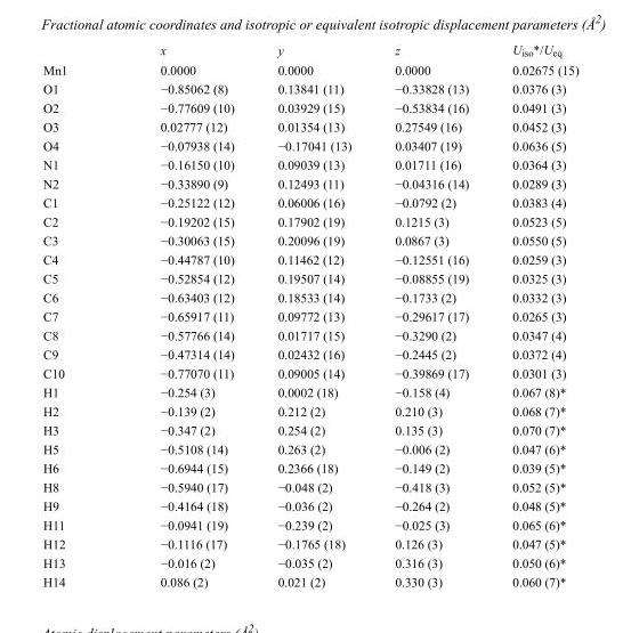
<table><thead><tr><td></td><td>x</td><td>y</td><td>z</td><td>U<sub>iso</sub>*/U<sub>eq</sub></td></tr></thead><tbody><tr><td>Mn1</td><td>0.0000</td><td>0.0000</td><td>0.0000</td><td>0.02675 (15)</td></tr><tr><td>O1</td><td>−0.85062 (8)</td><td>0.13841 (11)</td><td>−0.33828 (13)</td><td>0.0376 (3)</td></tr><tr><td>O2</td><td>−0.77609 (10)</td><td>0.03929 (15)</td><td>−0.53834 (16)</td><td>0.0491 (3)</td></tr><tr><td>O3</td><td>0.02777 (12)</td><td>0.01354 (13)</td><td>0.27549 (16)</td><td>0.0452 (3)</td></tr><tr><td>O4</td><td>−0.07938 (14)</td><td>−0.17041 (13)</td><td>0.03407 (19)</td><td>0.0636 (5)</td></tr><tr><td>N1</td><td>−0.16150 (10)</td><td>0.09039 (13)</td><td>0.01711 (16)</td><td>0.0364 (3)</td></tr><tr><td>N2</td><td>−0.33890 (9)</td><td>0.12493 (11)</td><td>−0.04316 (14)</td><td>0.0289 (3)</td></tr><tr><td>C1</td><td>−0.25122 (12)</td><td>0.06006 (16)</td><td>−0.0792 (2)</td><td>0.0383 (4)</td></tr><tr><td>C2</td><td>−0.19202 (15)</td><td>0.17902 (19)</td><td>0.1215 (3)</td><td>0.0523 (5)</td></tr><tr><td>C3</td><td>−0.30063 (15)</td><td>0.20096 (19)</td><td>0.0867 (3)</td><td>0.0550 (5)</td></tr><tr><td>C4</td><td>−0.44787 (10)</td><td>0.11462 (12)</td><td>−0.12551 (16)</td><td>0.0259 (3)</td></tr><tr><td>C5</td><td>−0.52854 (12)</td><td>0.19507 (14)</td><td>−0.08855 (19)</td><td>0.0325 (3)</td></tr><tr><td>C6</td><td>−0.63403 (12)</td><td>0.18533 (14)</td><td>−0.1733 (2)</td><td>0.0332 (3)</td></tr><tr><td>C7</td><td>−0.65917 (11)</td><td>0.09772 (13)</td><td>−0.29617 (17)</td><td>0.0265 (3)</td></tr><tr><td>C8</td><td>−0.57766 (14)</td><td>0.01717 (15)</td><td>−0.3290 (2)</td><td>0.0347 (4)</td></tr><tr><td>C9</td><td>−0.47314 (14)</td><td>0.02432 (16)</td><td>−0.2445 (2)</td><td>0.0372 (4)</td></tr><tr><td>C10</td><td>−0.77070 (11)</td><td>0.09005 (14)</td><td>−0.39869 (17)</td><td>0.0301 (3)</td></tr><tr><td>H1</td><td>−0.254 (3)</td><td>0.0002 (18)</td><td>−0.158 (4)</td><td>0.067 (8)*</td></tr><tr><td>H2</td><td>−0.139 (2)</td><td>0.212 (2)</td><td>0.210 (3)</td><td>0.068 (7)*</td></tr><tr><td>H3</td><td>−0.347 (2)</td><td>0.254 (2)</td><td>0.135 (3)</td><td>0.070 (7)*</td></tr><tr><td>H5</td><td>−0.5108 (14)</td><td>0.263 (2)</td><td>−0.006 (2)</td><td>0.047 (6)*</td></tr><tr><td>H6</td><td>−0.6944 (15)</td><td>0.2366 (18)</td><td>−0.149 (2)</td><td>0.039 (5)*</td></tr><tr><td>H8</td><td>−0.5940 (17)</td><td>−0.048 (2)</td><td>−0.418 (3)</td><td>0.052 (5)*</td></tr><tr><td>H9</td><td>−0.4164 (18)</td><td>−0.036 (2)</td><td>−0.264 (2)</td><td>0.048 (5)*</td></tr><tr><td>H11</td><td>−0.0941 (19)</td><td>−0.239 (2)</td><td>−0.025 (3)</td><td>0.065 (6)*</td></tr><tr><td>H12</td><td>−0.1116 (17)</td><td>−0.1765 (18)</td><td>0.126 (3)</td><td>0.047 (5)*</td></tr><tr><td>H13</td><td>−0.016 (2)</td><td>−0.035 (2)</td><td>0.316 (3)</td><td>0.050 (6)*</td></tr><tr><td>H14</td><td>0.086 (2)</td><td>0.021 (2)</td><td>0.330 (3)</td><td>0.060 (7)*</td></tr></tbody></table>